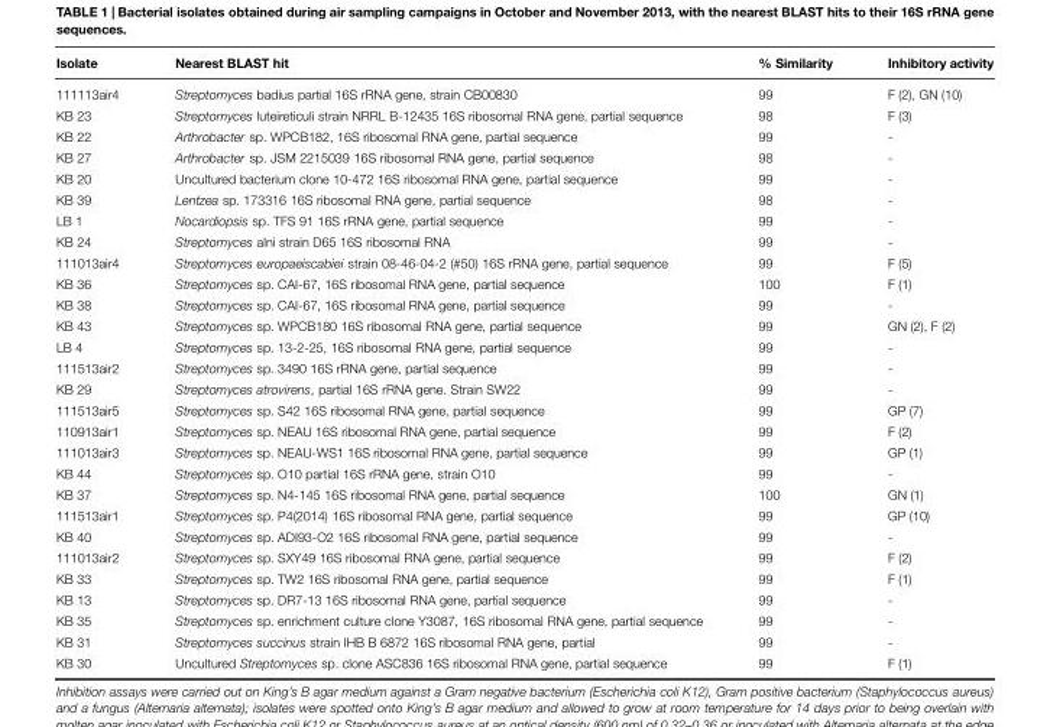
<table><thead><tr><td>Isolate</td><td>Nearest BLAST hit</td><td>% Similarity</td><td>Inhibitory activity</td></tr></thead><tbody><tr><td>111113air4</td><td>Streptomyces badius partial 16S rRNA gene, strain CB00830</td><td>99</td><td>F (2), GN (10)</td></tr><tr><td>KB 23</td><td>Streptomyces luteireticuli strain NRRL B-12435 16S ribosomal RNA gene, partial sequence</td><td>98</td><td>F (3)</td></tr><tr><td>KB 22</td><td>Arthrobacter sp. WPCB182, 16S ribosomal RNA gene, partial sequence</td><td>99</td><td>-</td></tr><tr><td>KB 27</td><td>Arthrobacter sp. JSM 2215039 16S ribosomal RNA gene, partial sequence</td><td>98</td><td>-</td></tr><tr><td>KB 20</td><td>Uncultured bacterium clone 10-472 16S ribosomal RNA gene, partial sequence</td><td>99</td><td>-</td></tr><tr><td>KB 39</td><td>Lentzea sp. 173316 16S ribosomal RNA gene, partial sequence</td><td>98</td><td>-</td></tr><tr><td>LB 1</td><td>Nocardiopsis sp. TFS 91 16S rRNA gene, partial sequence</td><td>99</td><td>-</td></tr><tr><td>KB 24</td><td>Streptomyces alni strain D65 16S ribosomal RNA</td><td>99</td><td>-</td></tr><tr><td>111013air4</td><td>Streptomyces europaeiscabiei strain 08-46-04-2 (#50) 16S rRNA gene, partial sequence</td><td>99</td><td>F (5)</td></tr><tr><td>KB 36</td><td>Streptomyces sp. CAI-67, 16S ribosomal RNA gene, partial sequence</td><td>100</td><td>F (1)</td></tr><tr><td>KB 38</td><td>Streptomyces sp. CAI-67, 16S ribosomal RNA gene, partial sequence</td><td>99</td><td>-</td></tr><tr><td>KB 43</td><td>Streptomyces sp. WPCB180 16S ribosomal RNA gene, partial sequence</td><td>99</td><td>GN (2), F (2)</td></tr><tr><td>LB 4</td><td>Streptomyces sp. 13-2-25, 16S ribosomal RNA gene, partial sequence</td><td>99</td><td>-</td></tr><tr><td>111513air2</td><td>Streptomyces sp. 3490 16S rRNA gene, partial sequence</td><td>99</td><td>-</td></tr><tr><td>KB 29</td><td>Streptomyces atrovirens, partial 16S rRNA gene. Strain SW22</td><td>99</td><td>-</td></tr><tr><td>111513air5</td><td>Streptomyces sp. S42 16S ribosomal RNA gene, partial sequence</td><td>99</td><td>GP (7)</td></tr><tr><td>110913air1</td><td>Streptomyces sp. NEAU 16S ribosomal RNA gene, partial sequence</td><td>99</td><td>F (2)</td></tr><tr><td>111013air3</td><td>Streptomyces sp. NEAU-WS1 16S ribosomal RNA gene, partial sequence</td><td>99</td><td>GP (1)</td></tr><tr><td>KB 44</td><td>Streptomyces sp. O10 partial 16S rRNA gene, strain O10</td><td>99</td><td>-</td></tr><tr><td>KB 37</td><td>Streptomyces sp. N4-145 16S ribosomal RNA gene, partial sequence</td><td>100</td><td>GN (1)</td></tr><tr><td>111513air1</td><td>Streptomyces sp. P4(2014) 16S ribosomal RNA gene, partial sequence</td><td>99</td><td>GP (10)</td></tr><tr><td>KB 40</td><td>Streptomyces sp. ADI93-O2 16S ribosomal RNA gene, partial sequence</td><td>99</td><td>-</td></tr><tr><td>111013air2</td><td>Streptomyces sp. SXY49 16S ribosomal RNA gene, partial sequence</td><td>99</td><td>F (2)</td></tr><tr><td>KB 33</td><td>Streptomyces sp. TW2 16S ribosomal RNA gene, partial sequence</td><td>99</td><td>F (1)</td></tr><tr><td>KB 13</td><td>Streptomyces sp. DR7-13 16S ribosomal RNA gene, partial sequence</td><td>99</td><td>-</td></tr><tr><td>KB 35</td><td>Streptomyces sp. enrichment culture clone Y3087, 16S ribosomal RNA gene, partial sequence</td><td>99</td><td>-</td></tr><tr><td>KB 31</td><td>Streptomyces succinus strain IHB B 6872 16S ribosomal RNA gene, partial</td><td>99</td><td>-</td></tr><tr><td>KB 30</td><td>Uncultured Streptomyces sp. clone ASC836 16S ribosomal RNA gene, partial sequence</td><td>99</td><td>F (1)</td></tr></tbody></table>